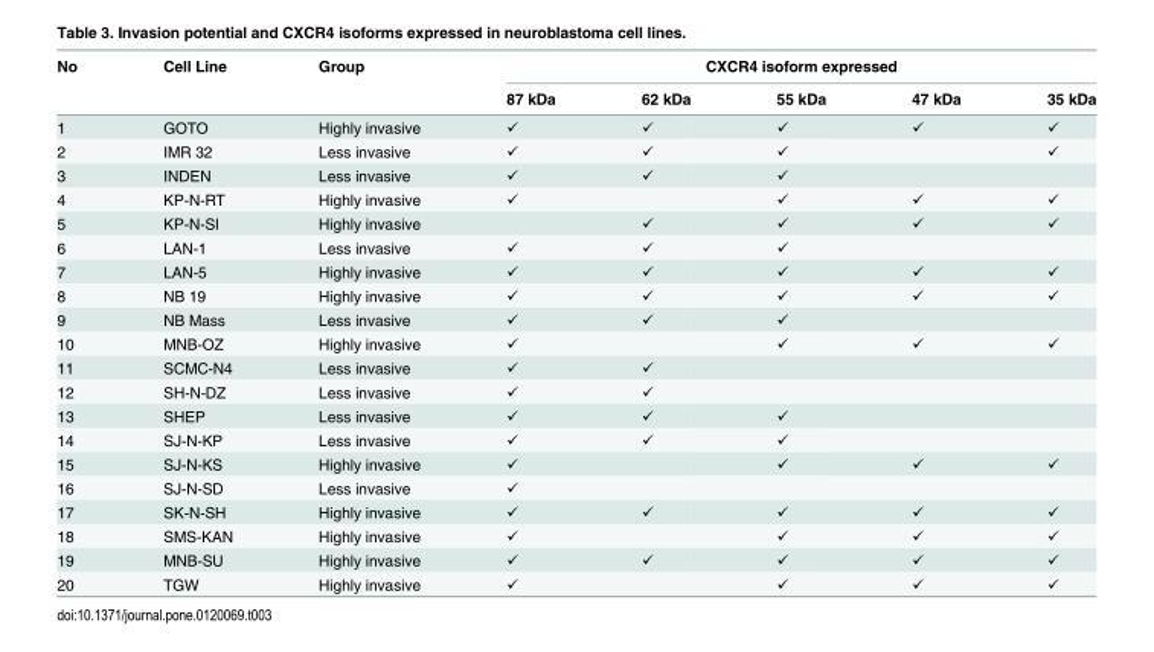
<table><thead><tr><td rowspan="2">No</td><td rowspan="2">Cell Line</td><td rowspan="2">Group</td><td colspan="5">CXCR4 isoform expressed</td></tr><tr><td>87 kDa</td><td>62 kDa</td><td>55 kDa</td><td>47 kDa</td><td>35 kDa</td></tr></thead><tbody><tr><td>1</td><td>GOTO</td><td>Highly invasive</td><td>✓</td><td>✓</td><td>✓</td><td>✓</td><td>✓</td></tr><tr><td>2</td><td>IMR 32</td><td>Less invasive</td><td>✓</td><td>✓</td><td>✓</td><td></td><td>✓</td></tr><tr><td>3</td><td>INDEN</td><td>Less invasive</td><td>✓</td><td>✓</td><td>✓</td><td></td><td></td></tr><tr><td>4</td><td>KP-N-RT</td><td>Highly invasive</td><td>✓</td><td></td><td>✓</td><td>✓</td><td>✓</td></tr><tr><td>5</td><td>KP-N-SI</td><td>Highly invasive</td><td></td><td>✓</td><td>✓</td><td>✓</td><td>✓</td></tr><tr><td>6</td><td>LAN-1</td><td>Less invasive</td><td>✓</td><td>✓</td><td>✓</td><td></td><td></td></tr><tr><td>7</td><td>LAN-5</td><td>Highly invasive</td><td>✓</td><td>✓</td><td>✓</td><td>✓</td><td>✓</td></tr><tr><td>8</td><td>NB 19</td><td>Highly invasive</td><td>✓</td><td>✓</td><td>✓</td><td>✓</td><td>✓</td></tr><tr><td>9</td><td>NB Mass</td><td>Less invasive</td><td>✓</td><td>✓</td><td>✓</td><td></td><td></td></tr><tr><td>10</td><td>MNB-OZ</td><td>Highly invasive</td><td>✓</td><td></td><td>✓</td><td>✓</td><td>✓</td></tr><tr><td>11</td><td>SCMC-N4</td><td>Less invasive</td><td>✓</td><td>✓</td><td></td><td></td><td></td></tr><tr><td>12</td><td>SH-N-DZ</td><td>Less invasive</td><td>✓</td><td>✓</td><td></td><td></td><td></td></tr><tr><td>13</td><td>SHEP</td><td>Less invasive</td><td>✓</td><td>✓</td><td>✓</td><td></td><td></td></tr><tr><td>14</td><td>SJ-N-KP</td><td>Less invasive</td><td>✓</td><td>✓</td><td>✓</td><td></td><td></td></tr><tr><td>15</td><td>SJ-N-KS</td><td>Highly invasive</td><td>✓</td><td></td><td>✓</td><td>✓</td><td>✓</td></tr><tr><td>16</td><td>SJ-N-SD</td><td>Less invasive</td><td>✓</td><td></td><td></td><td></td><td></td></tr><tr><td>17</td><td>SK-N-SH</td><td>Highly invasive</td><td>✓</td><td>✓</td><td>✓</td><td>✓</td><td>✓</td></tr><tr><td>18</td><td>SMS-KAN</td><td>Highly invasive</td><td>✓</td><td></td><td>✓</td><td>✓</td><td>✓</td></tr><tr><td>19</td><td>MNB-SU</td><td>Highly invasive</td><td>✓</td><td>✓</td><td>✓</td><td>✓</td><td>✓</td></tr><tr><td>20</td><td>TGW</td><td>Highly invasive</td><td>✓</td><td></td><td>✓</td><td>✓</td><td>✓</td></tr></tbody></table>